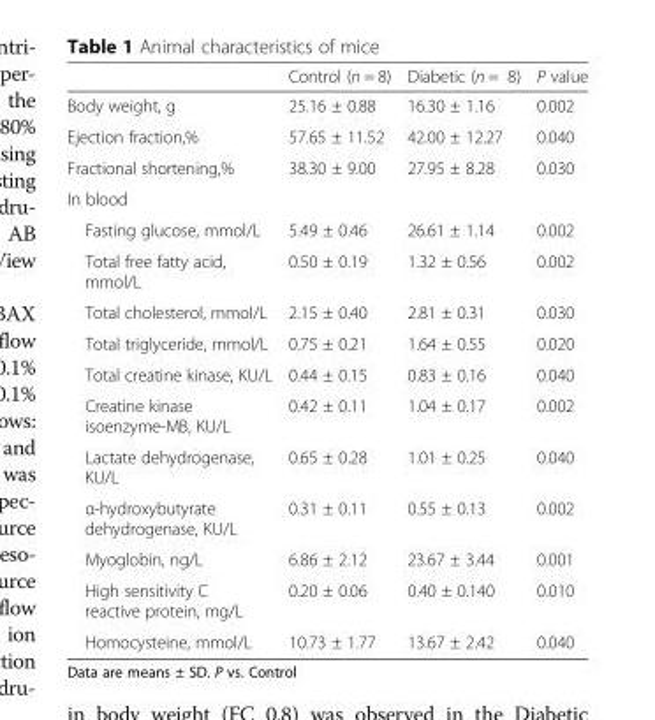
<table><thead><tr><td></td><td>Control (n = 8)</td><td>Diabetic (n = 8)</td><td>P value</td></tr></thead><tbody><tr><td>Body weight, g</td><td>25.16 ± 0.88</td><td>16.30 ± 1.16</td><td>0.002</td></tr><tr><td>Ejection fraction,%</td><td>57.65 ± 11.52</td><td>42.00 ± 12.27</td><td>0.040</td></tr><tr><td>Fractional shortening,%</td><td>38.30 ± 9.00</td><td>27.95 ± 8.28</td><td>0.030</td></tr><tr><td colspan="4">In blood</td></tr><tr><td>Fasting glucose, mmol/L</td><td>5.49 ± 0.46</td><td>26.61 ± 1.14</td><td>0.002</td></tr><tr><td>Total free fatty acid, mmol/L</td><td>0.50 ± 0.19</td><td>1.32 ± 0.56</td><td>0.002</td></tr><tr><td>Total cholesterol, mmol/L</td><td>2.15 ± 0.40</td><td>2.81 ± 0.31</td><td>0.030</td></tr><tr><td>Total triglyceride, mmol/L</td><td>0.75 ± 0.21</td><td>1.64 ± 0.55</td><td>0.020</td></tr><tr><td>Total creatine kinase, KU/L</td><td>0.44 ± 0.15</td><td>0.83 ± 0.16</td><td>0.040</td></tr><tr><td>Creatine kinase isoenzyme-MB, KU/L</td><td>0.42 ± 0.11</td><td>1.04 ± 0.17</td><td>0.002</td></tr><tr><td>Lactate dehydrogenase, KU/L</td><td>0.65 ± 0.28</td><td>1.01 ± 0.25</td><td>0.040</td></tr><tr><td>α-hydroxybutyrate dehydrogenase, KU/L</td><td>0.31 ± 0.11</td><td>0.55 ± 0.13</td><td>0.002</td></tr><tr><td>Myoglobin, ng/L</td><td>6.86 ± 2.12</td><td>23.67 ± 3.44</td><td>0.001</td></tr><tr><td>High sensitivity C reactive protein, mg/L</td><td>0.20 ± 0.06</td><td>0.40 ± 0.140</td><td>0.010</td></tr><tr><td>Homocysteine, mmol/L</td><td>10.73 ± 1.77</td><td>13.67 ± 2.42</td><td>0.040</td></tr></tbody></table>